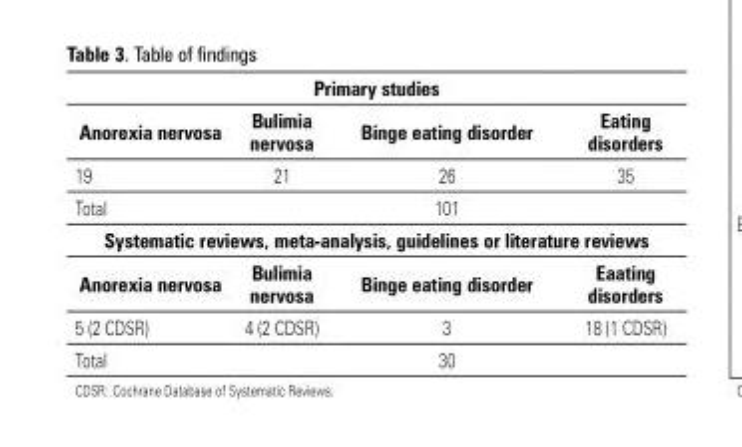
<table><thead><tr><td colspan="4">Primary studies</td></tr><tr><td>Anorexia nervosa</td><td>Bulimia nervosa</td><td>Binge eating disorder</td><td>Eating disorders</td></tr></thead><tbody><tr><td>19</td><td>21</td><td>26</td><td>35</td></tr><tr><td>Total</td><td></td><td>101</td><td></td></tr><tr><td colspan="4">Systematic reviews, meta-analysis, guidelines or literature reviews</td></tr><tr><td>Anorexia nervosa</td><td>Bulimia nervosa</td><td>Binge eating disorder</td><td>Eaating disorders</td></tr><tr><td>5 (2 CDSR)</td><td>4 (2 CDSR)</td><td>3</td><td>18 (1 CDSR)</td></tr><tr><td>Total</td><td></td><td>30</td><td></td></tr></tbody></table>